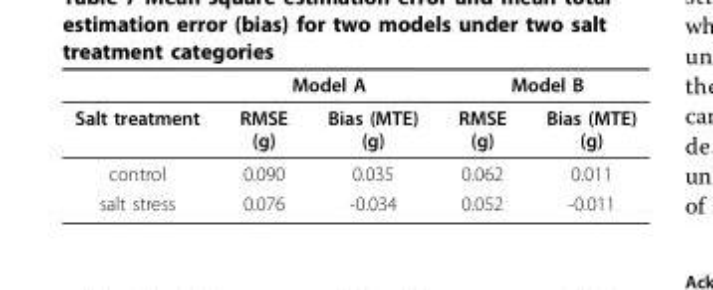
<table><thead><tr><td rowspan="2">Salt treatment</td><td colspan="2">Model A</td><td colspan="2">Model B</td></tr><tr><td>RMSE (g)</td><td>Bias (MTE) (g)</td><td>RMSE (g)</td><td>Bias (MTE) (g)</td></tr></thead><tbody><tr><td>control</td><td>0.090</td><td>0.035</td><td>0.062</td><td>0.011</td></tr><tr><td>salt stress</td><td>0.076</td><td>-0.034</td><td>0.052</td><td>-0.011</td></tr></tbody></table>